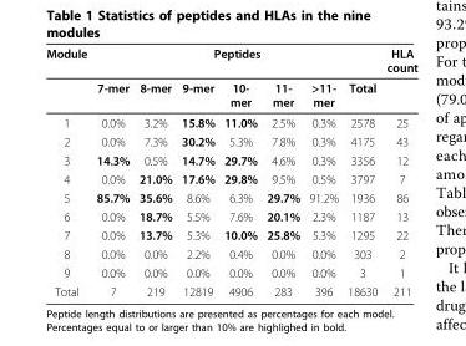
<table><thead><tr><td rowspan="2">Module</td><td colspan="7">Peptides</td><td rowspan="2">HLA count</td></tr><tr><td>7-mer</td><td>8-mer</td><td>9-mer</td><td>10- mer</td><td>11- mer</td><td>&gt;11- mer</td><td>Total</td></tr></thead><tbody><tr><td>1</td><td>0.0%</td><td>3.2%</td><td>15.8%</td><td>11.0%</td><td>2.5%</td><td>0.3%</td><td>2578</td><td>25</td></tr><tr><td>2</td><td>0.0%</td><td>7.3%</td><td>30.2%</td><td>5.3%</td><td>7.8%</td><td>0.3%</td><td>4175</td><td>43</td></tr><tr><td>3</td><td>14.3%</td><td>0.5%</td><td>14.7%</td><td>29.7%</td><td>4.6%</td><td>0.3%</td><td>3356</td><td>12</td></tr><tr><td>4</td><td>0.0%</td><td>21.0%</td><td>17.6%</td><td>29.8%</td><td>9.5%</td><td>0.5%</td><td>3797</td><td>7</td></tr><tr><td>5</td><td>85.7%</td><td>35.6%</td><td>8.6%</td><td>6.3%</td><td>29.7%</td><td>91.2%</td><td>1936</td><td>86</td></tr><tr><td>6</td><td>0.0%</td><td>18.7%</td><td>5.5%</td><td>7.6%</td><td>20.1%</td><td>2.3%</td><td>1187</td><td>13</td></tr><tr><td>7</td><td>0.0%</td><td>13.7%</td><td>5.3%</td><td>10.0%</td><td>25.8%</td><td>5.3%</td><td>1295</td><td>22</td></tr><tr><td>8</td><td>0.0%</td><td>0.0%</td><td>2.2%</td><td>0.4%</td><td>0.0%</td><td>0.0%</td><td>303</td><td>2</td></tr><tr><td>9</td><td>0.0%</td><td>0.0%</td><td>0.0%</td><td>0.0%</td><td>0.0%</td><td>0.0%</td><td>3</td><td>1</td></tr><tr><td>Total</td><td>7</td><td>219</td><td>12819</td><td>4906</td><td>283</td><td>396</td><td>18630</td><td>211</td></tr></tbody></table>